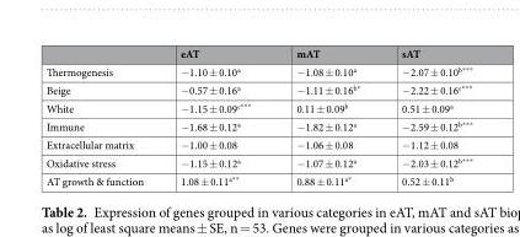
<table><thead><tr><td></td><td>eAT</td><td>mAT</td><td>sAT</td></tr></thead><tbody><tr><td>Thermogenesis</td><td>−1.10 ± 0.10<sup>a</sup></td><td>−1.08 ± 0.10<sup>a</sup></td><td>−2.07 ± 0.10<sup>b***</sup></td></tr><tr><td>Beige</td><td>−0.57 ± 0.16<sup>a</sup></td><td>−1.11 ± 0.16<sup>b*</sup></td><td>−2.22 ± 0.16<sup>c***</sup></td></tr><tr><td>White</td><td>−1.15 ± 0.09<sup>c***</sup></td><td>0.11 ± 0.09<sup>b</sup></td><td>0.51 ± 0.09<sup>a</sup></td></tr><tr><td>Immune</td><td>−1.68 ± 0.12<sup>a</sup></td><td>−1.82 ± 0.12<sup>a</sup></td><td>−2.59 ± 0.12<sup>b***</sup></td></tr><tr><td>Extracellular matrix</td><td>−1.00 ± 0.08</td><td>−1.06 ± 0.08</td><td>−1.12 ± 0.08</td></tr><tr><td>Oxidative stress</td><td>−1.15 ± 0.12<sup>a</sup></td><td>−1.07 ± 0.12<sup>a</sup></td><td>−2.03 ± 0.12<sup>b***</sup></td></tr><tr><td>AT growth &amp; function</td><td>1.08 ± 0.11<sup>a**</sup></td><td>0.88 ± 0.11<sup>a*</sup></td><td>0.52 ± 0.11<sup>b</sup></td></tr></tbody></table>